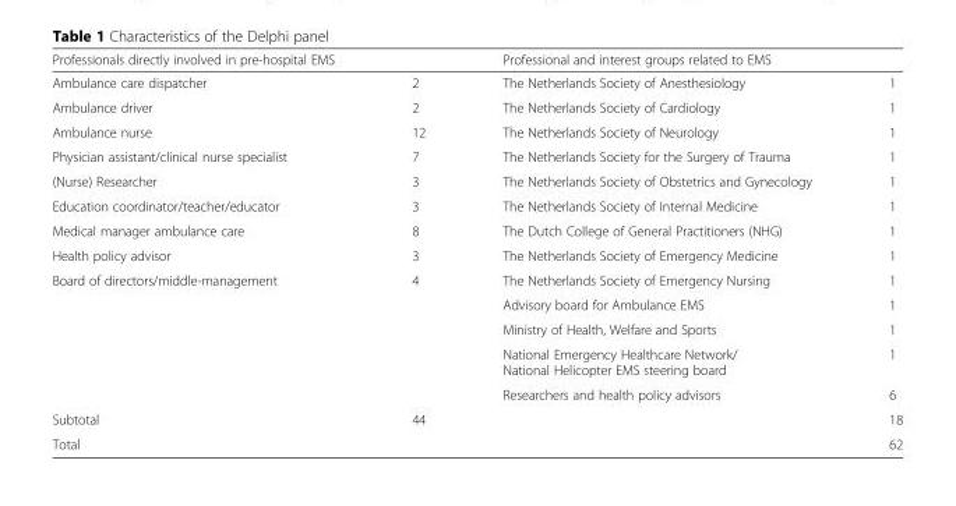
<table><thead><tr><td>Professionals directly involved in pre-hospital EMS</td><td></td><td>Professional and interest groups related to EMS</td><td></td></tr></thead><tbody><tr><td>Ambulance care dispatcher</td><td>2</td><td>The Netherlands Society of Anesthesiology</td><td>1</td></tr><tr><td>Ambulance driver</td><td>2</td><td>The Netherlands Society of Cardiology</td><td>1</td></tr><tr><td>Ambulance nurse</td><td>12</td><td>The Netherlands Society of Neurology</td><td>1</td></tr><tr><td>Physician assistant/clinical nurse specialist</td><td>7</td><td>The Netherlands Society for the Surgery of Trauma</td><td>1</td></tr><tr><td>(Nurse) Researcher</td><td>3</td><td>The Netherlands Society of Obstetrics and Gynecology</td><td>1</td></tr><tr><td>Education coordinator/teacher/educator</td><td>3</td><td>The Netherlands Society of Internal Medicine</td><td>1</td></tr><tr><td>Medical manager ambulance care</td><td>8</td><td>The Dutch College of General Practitioners (NHG)</td><td>1</td></tr><tr><td>Health policy advisor</td><td>3</td><td>The Netherlands Society of Emergency Medicine</td><td>1</td></tr><tr><td rowspan="5">Board of directors/middle-management</td><td>4</td><td>The Netherlands Society of Emergency Nursing</td><td>1</td></tr><tr><td></td><td>Advisory board for Ambulance EMS</td><td>1</td></tr><tr><td></td><td>Ministry of Health, Welfare and Sports</td><td>1</td></tr><tr><td></td><td>National Emergency Healthcare Network/ National Helicopter EMS steering board</td><td>1</td></tr><tr><td></td><td>Researchers and health policy advisors</td><td>6</td></tr><tr><td>Subtotal</td><td>44</td><td></td><td>18</td></tr><tr><td colspan="3">Total</td><td>62</td></tr></tbody></table>